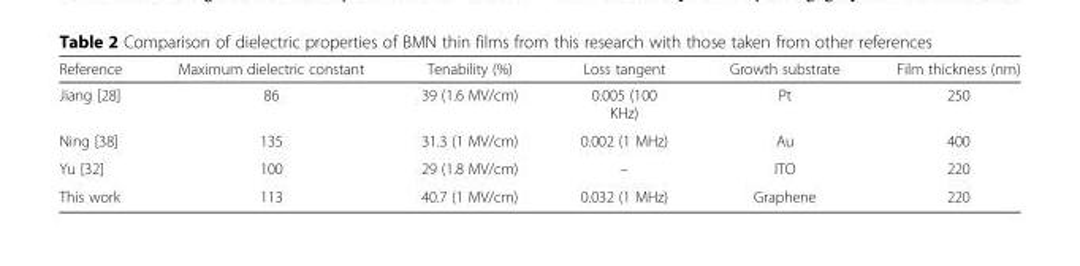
<table><thead><tr><td>Reference</td><td>Maximum dielectric constant</td><td>Tenability (%)</td><td>Loss tangent</td><td>Growth substrate</td><td>Film thickness (nm)</td></tr></thead><tbody><tr><td>Jiang [28]</td><td>86</td><td>39 (1.6 MV/cm)</td><td>0.005 (100 KHz)</td><td>Pt</td><td>250</td></tr><tr><td>Ning [38]</td><td>135</td><td>31.3 (1 MV/cm)</td><td>0.002 (1 MHz)</td><td>Au</td><td>400</td></tr><tr><td>Yu [32]</td><td>100</td><td>29 (1.8 MV/cm)</td><td>–</td><td>ITO</td><td>220</td></tr><tr><td>This work</td><td>113</td><td>40.7 (1 MV/cm)</td><td>0.032 (1 MHz)</td><td>Graphene</td><td>220</td></tr></tbody></table>